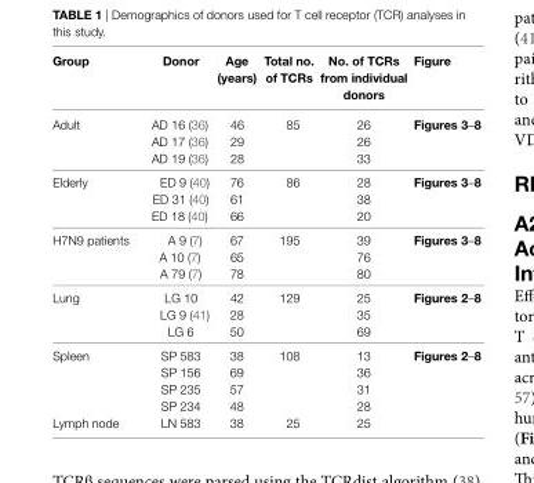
<table><thead><tr><td>group</td><td>Donor</td><td>age (years)</td><td>Total no. of Tcrs</td><td>no. of Tcrs from individual donors</td><td>Figure</td></tr></thead><tbody><tr><td rowspan="3">Adult</td><td>AD 16 (36)</td><td>46</td><td rowspan="3">85</td><td>26</td><td rowspan="3">Figures 3–8</td></tr><tr><td>AD 17 (36)</td><td>29</td><td>26</td></tr><tr><td>AD 19 (36)</td><td>28</td><td>33</td></tr><tr><td rowspan="3">Elderly</td><td>ED 9 (40)</td><td>76</td><td rowspan="3">86</td><td>28</td><td rowspan="3">Figures 3–8</td></tr><tr><td>ED 31 (40)</td><td>61</td><td>38</td></tr><tr><td>ED 18 (40)</td><td>66</td><td>20</td></tr><tr><td rowspan="3">H7N9 patients</td><td>A 9 (7)</td><td>67</td><td rowspan="3">195</td><td>39</td><td rowspan="3">Figures 3–8</td></tr><tr><td>A 10 (7)</td><td>65</td><td>76</td></tr><tr><td>A 79 (7)</td><td>78</td><td>80</td></tr><tr><td rowspan="3">Lung</td><td>LG 10</td><td>42</td><td rowspan="3">129</td><td>25</td><td rowspan="3">Figures 2–8</td></tr><tr><td>LG 9 (41)</td><td>28</td><td>35</td></tr><tr><td>LG 6</td><td>50</td><td>69</td></tr><tr><td rowspan="4">Spleen</td><td>SP 583</td><td>38</td><td rowspan="4">108</td><td>13</td><td rowspan="5">Figures 2–8</td></tr><tr><td>SP 156</td><td>69</td><td>36</td></tr><tr><td>SP 235</td><td>57</td><td>31</td></tr><tr><td>SP 234</td><td>48</td><td>28</td></tr><tr><td>Lymph node</td><td>LN 583</td><td>38</td><td>25</td><td>25</td></tr></tbody></table>